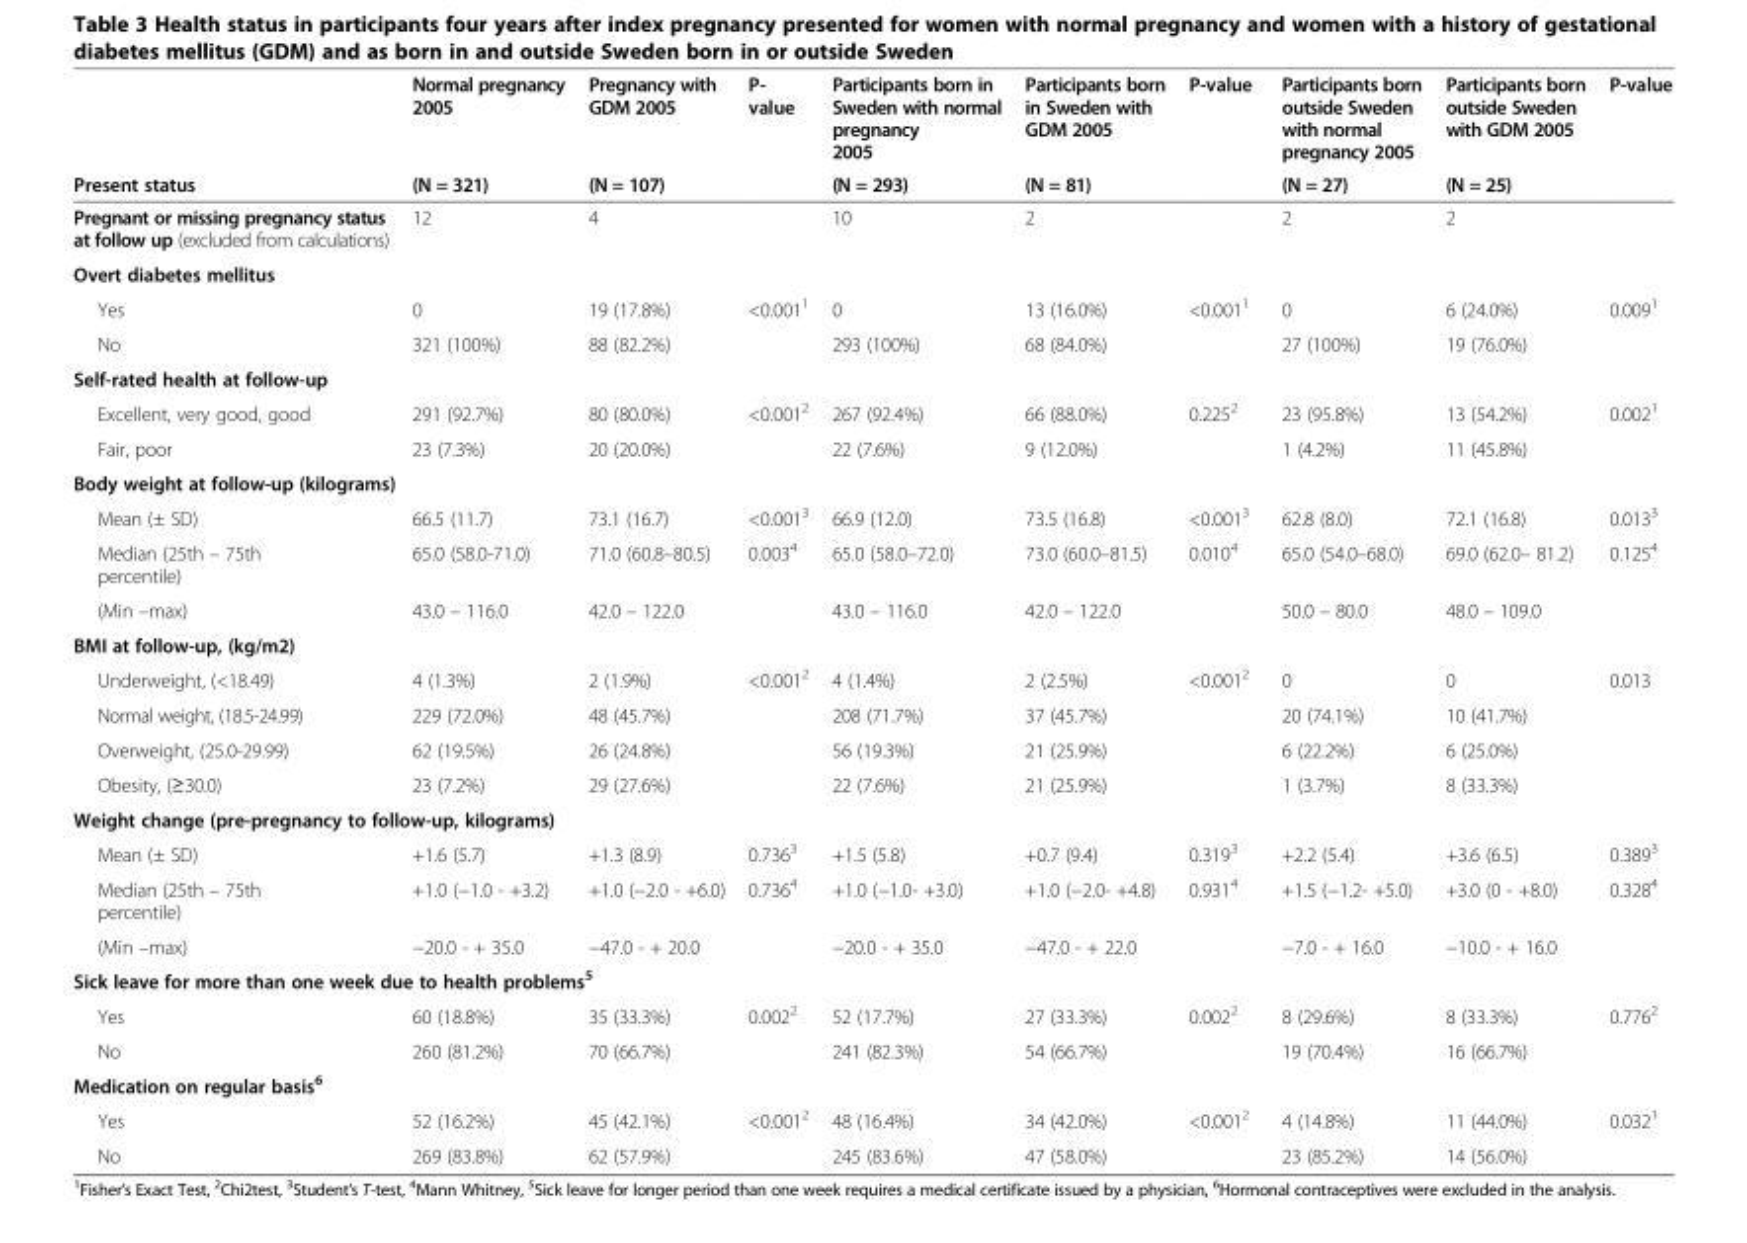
<table><thead><tr><td rowspan="2">Present status</td><td rowspan="2">Normal pregnancy 2005 (N = 321)</td><td rowspan="2">Pregnancy with GDM 2005 (N = 107)</td><td rowspan="2">P- value</td><td rowspan="2">Participants born in Sweden with normal pregnancy 2005 (N = 293)</td><td rowspan="2">Participants born in Sweden with GDM 2005 (N = 81)</td><td rowspan="2">P-value</td><td rowspan="2">Participants born outside Sweden with normal pregnancy 2005 (N = 27)</td><td rowspan="2">Participants born outside Sweden with GDM 2005 (N = 25)</td><td rowspan="2">P-value</td></tr><tr></tr></thead><tbody><tr><td>Pregnant or missing pregnancy status at follow up (excluded from calculations)</td><td>12</td><td>4</td><td></td><td>10</td><td>2</td><td></td><td>2</td><td>2</td><td></td></tr><tr><td colspan="10">Overt diabetes mellitus</td></tr><tr><td>Yes</td><td>0</td><td>19 (17.8%)</td><td>&lt;0.001<sup>1</sup></td><td>0</td><td>13 (16.0%)</td><td>&lt;0.001<sup>1</sup></td><td>0</td><td>6 (24.0%)</td><td>0.009<sup>1</sup></td></tr><tr><td>No</td><td>321 (100%)</td><td>88 (82.2%)</td><td></td><td>293 (100%)</td><td>68 (84.0%)</td><td></td><td>27 (100%)</td><td>19 (76.0%)</td><td></td></tr><tr><td colspan="10">Self-rated health at follow-up</td></tr><tr><td>Excellent, very good, good</td><td>291 (92.7%)</td><td>80 (80.0%)</td><td>&lt;0.001<sup>2</sup></td><td>267 (92.4%)</td><td>66 (88.0%)</td><td>0.225<sup>2</sup></td><td>23 (95.8%)</td><td>13 (54.2%)</td><td>0.002<sup>1</sup></td></tr><tr><td>Fair, poor</td><td>23 (7.3%)</td><td>20 (20.0%)</td><td></td><td>22 (7.6%)</td><td>9 (12.0%)</td><td></td><td>1 (4.2%)</td><td>11 (45.8%)</td><td></td></tr><tr><td colspan="10">Body weight at follow-up (kilograms)</td></tr><tr><td>Mean (± SD)</td><td>66.5 (11.7)</td><td>73.1 (16.7)</td><td>&lt;0.001<sup>3</sup></td><td>66.9 (12.0)</td><td>73.5 (16.8)</td><td>&lt;0.001<sup>3</sup></td><td>62.8 (8.0)</td><td>72.1 (16.8)</td><td>0.013<sup>3</sup></td></tr><tr><td>Median (25th – 75th percentile)</td><td>65.0 (58.0-71.0)</td><td>71.0 (60.8–80.5)</td><td>0.003<sup>4</sup></td><td>65.0 (58.0–72.0)</td><td>73.0 (60.0–81.5)</td><td>0.010<sup>4</sup></td><td>65.0 (54.0–68.0)</td><td>69.0 (62.0– 81.2)</td><td>0.125<sup>4</sup></td></tr><tr><td>(Min –max)</td><td>43.0 – 116.0</td><td>42.0 – 122.0</td><td></td><td>43.0 – 116.0</td><td>42.0 – 122.0</td><td></td><td>50.0 – 80.0</td><td>48.0 – 109.0</td><td></td></tr><tr><td colspan="10">BMI at follow-up, (kg/m2)</td></tr><tr><td>Underweight, (&lt;18.49)</td><td>4 (1.3%)</td><td>2 (1.9%)</td><td>&lt;0.001<sup>2</sup></td><td>4 (1.4%)</td><td>2 (2.5%)</td><td>&lt;0.001<sup>2</sup></td><td>0</td><td>0</td><td>0.013</td></tr><tr><td>Normal weight, (18.5-24.99)</td><td>229 (72.0%)</td><td>48 (45.7%)</td><td></td><td>208 (71.7%)</td><td>37 (45.7%)</td><td></td><td>20 (74.1%)</td><td>10 (41.7%)</td><td></td></tr><tr><td>Overweight, (25.0-29.99)</td><td>62 (19.5%)</td><td>26 (24.8%)</td><td></td><td>56 (19.3%)</td><td>21 (25.9%)</td><td></td><td>6 (22.2%)</td><td>6 (25.0%)</td><td></td></tr><tr><td>Obesity, (≥30.0)</td><td>23 (7.2%)</td><td>29 (27.6%)</td><td></td><td>22 (7.6%)</td><td>21 (25.9%)</td><td></td><td>1 (3.7%)</td><td>8 (33.3%)</td><td></td></tr><tr><td colspan="10">Weight change (pre-pregnancy to follow-up, kilograms)</td></tr><tr><td>Mean (± SD)</td><td>+1.6 (5.7)</td><td>+1.3 (8.9)</td><td>0.736<sup>3</sup></td><td>+1.5 (5.8)</td><td>+0.7 (9.4)</td><td>0.319<sup>3</sup></td><td>+2.2 (5.4)</td><td>+3.6 (6.5)</td><td>0.389<sup>3</sup></td></tr><tr><td>Median (25th – 75th percentile)</td><td>+1.0 (−1.0 - +3.2)</td><td>+1.0 (−2.0 - +6.0)</td><td>0.736<sup>4</sup></td><td>+1.0 (−1.0- +3.0)</td><td>+1.0 (−2.0- +4.8)</td><td>0.931<sup>4</sup></td><td>+1.5 (−1.2- +5.0)</td><td>+3.0 (0 - +8.0)</td><td>0.328<sup>4</sup></td></tr><tr><td>(Min –max)</td><td>−20.0 - + 35.0</td><td>−47.0 - + 20.0</td><td></td><td>−20.0 - + 35.0</td><td>−47.0 - + 22.0</td><td></td><td>−7.0 - + 16.0</td><td>−10.0 - + 16.0</td><td></td></tr><tr><td colspan="10">Sick leave for more than one week due to health problems<sup>5</sup></td></tr><tr><td>Yes</td><td>60 (18.8%)</td><td>35 (33.3%)</td><td>0.002<sup>2</sup></td><td>52 (17.7%)</td><td>27 (33.3%)</td><td>0.002<sup>2</sup></td><td>8 (29.6%)</td><td>8 (33.3%)</td><td>0.776<sup>2</sup></td></tr><tr><td>No</td><td>260 (81.2%)</td><td>70 (66.7%)</td><td></td><td>241 (82.3%)</td><td>54 (66.7%)</td><td></td><td>19 (70.4%)</td><td>16 (66.7%)</td><td></td></tr><tr><td colspan="10">Medication on regular basis<sup>6</sup></td></tr><tr><td>Yes</td><td>52 (16.2%)</td><td>45 (42.1%)</td><td>&lt;0.001<sup>2</sup></td><td>48 (16.4%)</td><td>34 (42.0%)</td><td>&lt;0.001<sup>2</sup></td><td>4 (14.8%)</td><td>11 (44.0%)</td><td>0.032<sup>1</sup></td></tr><tr><td>No</td><td>269 (83.8%)</td><td>62 (57.9%)</td><td></td><td>245 (83.6%)</td><td>47 (58.0%)</td><td></td><td>23 (85.2%)</td><td>14 (56.0%)</td><td></td></tr></tbody></table>